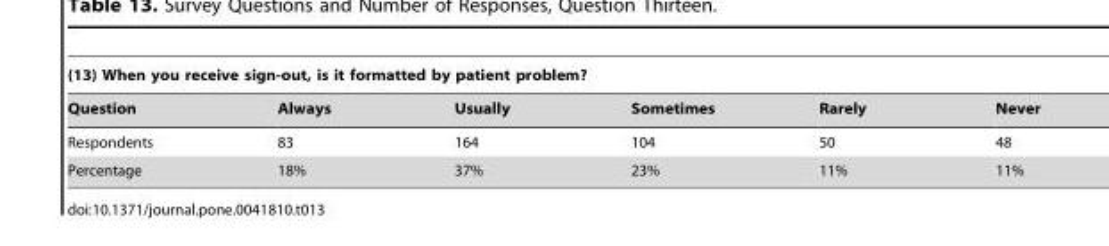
<table><thead><tr><td colspan="6">(13) When you receive sign-out, is it formatted by patient problem?</td></tr><tr><td>Question</td><td>Always</td><td>Usually</td><td>Sometimes</td><td>Rarely</td><td>Never</td></tr></thead><tbody><tr><td>Respondents</td><td>83</td><td>164</td><td>104</td><td>50</td><td>48</td></tr><tr><td>Percentage</td><td>18%</td><td>37%</td><td>23%</td><td>11%</td><td>11%</td></tr></tbody></table>